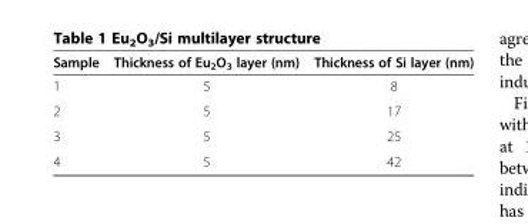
<table><thead><tr><td>Sample</td><td>Thickness of Eu<sub>2</sub>O<sub>3</sub> layer (nm)</td><td>Thickness of Si layer (nm)</td></tr></thead><tbody><tr><td>1</td><td>5</td><td>8</td></tr><tr><td>2</td><td>5</td><td>17</td></tr><tr><td>3</td><td>5</td><td>25</td></tr><tr><td>4</td><td>5</td><td>42</td></tr></tbody></table>